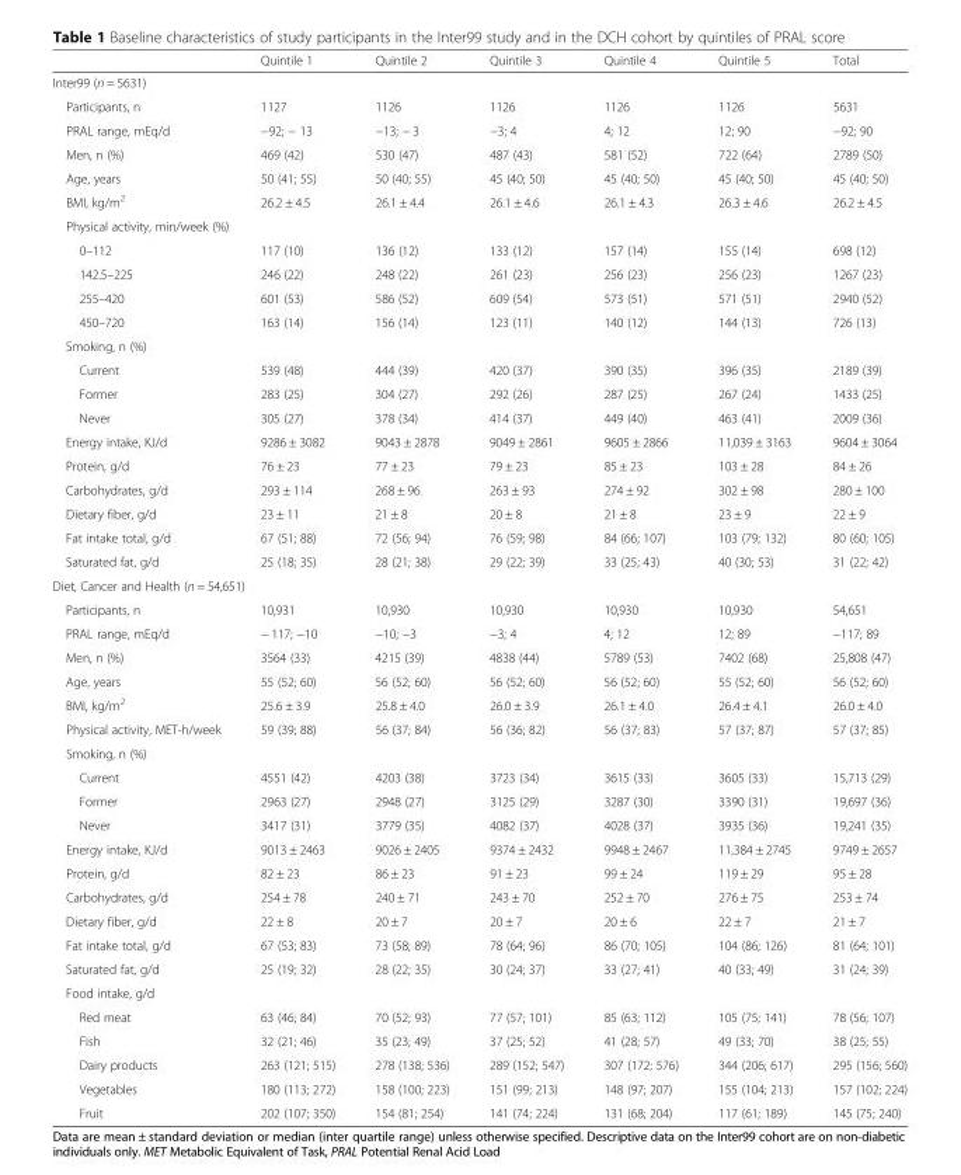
<table><thead><tr><td></td><td>Quintile 1</td><td>Quintile 2</td><td>Quintile 3</td><td>Quintile 4</td><td>Quintile 5</td><td>Total</td></tr></thead><tbody><tr><td colspan="7">Inter99 (n = 5631)</td></tr><tr><td>Participants, n</td><td>1127</td><td>1126</td><td>1126</td><td>1126</td><td>1126</td><td>5631</td></tr><tr><td>PRAL range, mEq/d</td><td>−92; − 13</td><td>−13; − 3</td><td>−3; 4</td><td>4; 12</td><td>12; 90</td><td>−92; 90</td></tr><tr><td>Men, n (%)</td><td>469 (42)</td><td>530 (47)</td><td>487 (43)</td><td>581 (52)</td><td>722 (64)</td><td>2789 (50)</td></tr><tr><td>Age, years</td><td>50 (41; 55)</td><td>50 (40; 55)</td><td>45 (40; 50)</td><td>45 (40; 50)</td><td>45 (40; 50)</td><td>45 (40; 50)</td></tr><tr><td>BMI, kg/m<sup>2</sup></td><td>26.2 ± 4.5</td><td>26.1 ± 4.4</td><td>26.1 ± 4.6</td><td>26.1 ± 4.3</td><td>26.3 ± 4.6</td><td>26.2 ± 4.5</td></tr><tr><td colspan="7">Physical activity, min/week (%)</td></tr><tr><td>0–112</td><td>117 (10)</td><td>136 (12)</td><td>133 (12)</td><td>157 (14)</td><td>155 (14)</td><td>698 (12)</td></tr><tr><td>142.5–225</td><td>246 (22)</td><td>248 (22)</td><td>261 (23)</td><td>256 (23)</td><td>256 (23)</td><td>1267 (23)</td></tr><tr><td>255–420</td><td>601 (53)</td><td>586 (52)</td><td>609 (54)</td><td>573 (51)</td><td>571 (51)</td><td>2940 (52)</td></tr><tr><td>450–720</td><td>163 (14)</td><td>156 (14)</td><td>123 (11)</td><td>140 (12)</td><td>144 (13)</td><td>726 (13)</td></tr><tr><td colspan="7">Smoking, n (%)</td></tr><tr><td>Current</td><td>539 (48)</td><td>444 (39)</td><td>420 (37)</td><td>390 (35)</td><td>396 (35)</td><td>2189 (39)</td></tr><tr><td>Former</td><td>283 (25)</td><td>304 (27)</td><td>292 (26)</td><td>287 (25)</td><td>267 (24)</td><td>1433 (25)</td></tr><tr><td>Never</td><td>305 (27)</td><td>378 (34)</td><td>414 (37)</td><td>449 (40)</td><td>463 (41)</td><td>2009 (36)</td></tr><tr><td>Energy intake, KJ/d</td><td>9286 ± 3082</td><td>9043 ± 2878</td><td>9049 ± 2861</td><td>9605 ± 2866</td><td>11,039 ± 3163</td><td>9604 ± 3064</td></tr><tr><td>Protein, g/d</td><td>76 ± 23</td><td>77 ± 23</td><td>79 ± 23</td><td>85 ± 23</td><td>103 ± 28</td><td>84 ± 26</td></tr><tr><td>Carbohydrates, g/d</td><td>293 ± 114</td><td>268 ± 96</td><td>263 ± 93</td><td>274 ± 92</td><td>302 ± 98</td><td>280 ± 100</td></tr><tr><td>Dietary fiber, g/d</td><td>23 ± 11</td><td>21 ± 8</td><td>20 ± 8</td><td>21 ± 8</td><td>23 ± 9</td><td>22 ± 9</td></tr><tr><td>Fat intake total, g/d</td><td>67 (51; 88)</td><td>72 (56; 94)</td><td>76 (59; 98)</td><td>84 (66; 107)</td><td>103 (79; 132)</td><td>80 (60; 105)</td></tr><tr><td>Saturated fat, g/d</td><td>25 (18; 35)</td><td>28 (21; 38)</td><td>29 (22; 39)</td><td>33 (25; 43)</td><td>40 (30; 53)</td><td>31 (22; 42)</td></tr><tr><td colspan="7">Diet, Cancer and Health (n = 54,651)</td></tr><tr><td>Participants, n</td><td>10,931</td><td>10,930</td><td>10,930</td><td>10,930</td><td>10,930</td><td>54,651</td></tr><tr><td>PRAL range, mEq/d</td><td>− 117; −10</td><td>−10; −3</td><td>−3; 4</td><td>4; 12</td><td>12; 89</td><td>−117; 89</td></tr><tr><td>Men, n (%)</td><td>3564 (33)</td><td>4215 (39)</td><td>4838 (44)</td><td>5789 (53)</td><td>7402 (68)</td><td>25,808 (47)</td></tr><tr><td>Age, years</td><td>55 (52; 60)</td><td>56 (52; 60)</td><td>56 (52; 60)</td><td>56 (52; 60)</td><td>55 (52; 60)</td><td>56 (52; 60)</td></tr><tr><td>BMI, kg/m<sup>2</sup></td><td>25.6 ± 3.9</td><td>25.8 ± 4.0</td><td>26.0 ± 3.9</td><td>26.1 ± 4.0</td><td>26.4 ± 4.1</td><td>26.0 ± 4.0</td></tr><tr><td>Physical activity, MET-h/week</td><td>59 (39; 88)</td><td>56 (37; 84)</td><td>56 (36; 82)</td><td>56 (37; 83)</td><td>57 (37; 87)</td><td>57 (37; 85)</td></tr><tr><td colspan="7">Smoking, n (%)</td></tr><tr><td>Current</td><td>4551 (42)</td><td>4203 (38)</td><td>3723 (34)</td><td>3615 (33)</td><td>3605 (33)</td><td>15,713 (29)</td></tr><tr><td>Former</td><td>2963 (27)</td><td>2948 (27)</td><td>3125 (29)</td><td>3287 (30)</td><td>3390 (31)</td><td>19,697 (36)</td></tr><tr><td>Never</td><td>3417 (31)</td><td>3779 (35)</td><td>4082 (37)</td><td>4028 (37)</td><td>3935 (36)</td><td>19,241 (35)</td></tr><tr><td>Energy intake, KJ/d</td><td>9013 ± 2463</td><td>9026 ± 2405</td><td>9374 ± 2432</td><td>9948 ± 2467</td><td>11,384 ± 2745</td><td>9749 ± 2657</td></tr><tr><td>Protein, g/d</td><td>82 ± 23</td><td>86 ± 23</td><td>91 ± 23</td><td>99 ± 24</td><td>119 ± 29</td><td>95 ± 28</td></tr><tr><td>Carbohydrates, g/d</td><td>254 ± 78</td><td>240 ± 71</td><td>243 ± 70</td><td>252 ± 70</td><td>276 ± 75</td><td>253 ± 74</td></tr><tr><td>Dietary fiber, g/d</td><td>22 ± 8</td><td>20 ± 7</td><td>20 ± 7</td><td>20 ± 6</td><td>22 ± 7</td><td>21 ± 7</td></tr><tr><td>Fat intake total, g/d</td><td>67 (53; 83)</td><td>73 (58; 89)</td><td>78 (64; 96)</td><td>86 (70; 105)</td><td>104 (86; 126)</td><td>81 (64; 101)</td></tr><tr><td>Saturated fat, g/d</td><td>25 (19; 32)</td><td>28 (22; 35)</td><td>30 (24; 37)</td><td>33 (27; 41)</td><td>40 (33; 49)</td><td>31 (24; 39)</td></tr><tr><td colspan="7">Food intake, g/d</td></tr><tr><td>Red meat</td><td>63 (46; 84)</td><td>70 (52; 93)</td><td>77 (57; 101)</td><td>85 (63; 112)</td><td>105 (75; 141)</td><td>78 (56; 107)</td></tr><tr><td>Fish</td><td>32 (21; 46)</td><td>35 (23; 49)</td><td>37 (25; 52)</td><td>41 (28; 57)</td><td>49 (33; 70)</td><td>38 (25; 55)</td></tr><tr><td>Dairy products</td><td>263 (121; 515)</td><td>278 (138; 536)</td><td>289 (152; 547)</td><td>307 (172; 576)</td><td>344 (206; 617)</td><td>295 (156; 560)</td></tr><tr><td>Vegetables</td><td>180 (113; 272)</td><td>158 (100; 223)</td><td>151 (99; 213)</td><td>148 (97; 207)</td><td>155 (104; 213)</td><td>157 (102; 224)</td></tr><tr><td>Fruit</td><td>202 (107; 350)</td><td>154 (81; 254)</td><td>141 (74; 224)</td><td>131 (68; 204)</td><td>117 (61; 189)</td><td>145 (75; 240)</td></tr></tbody></table>